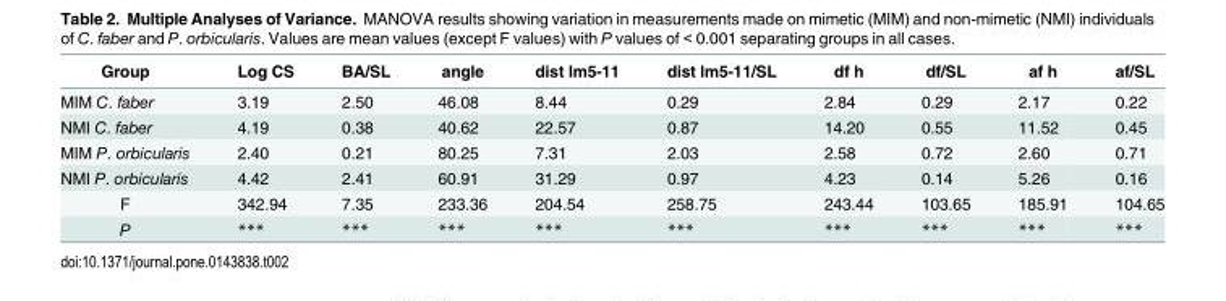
<table><thead><tr><td>Group</td><td>Log CS</td><td>BA/SL</td><td>angle</td><td>dist lm5-11</td><td>dist lm5-11/SL</td><td>df h</td><td>df/SL</td><td>af h</td><td>af/SL</td></tr></thead><tbody><tr><td>MIM C. faber</td><td>3.19</td><td>2.50</td><td>46.08</td><td>8.44</td><td>0.29</td><td>2.84</td><td>0.29</td><td>2.17</td><td>0.22</td></tr><tr><td>NMI C. faber</td><td>4.19</td><td>0.38</td><td>40.62</td><td>22.57</td><td>0.87</td><td>14.20</td><td>0.55</td><td>11.52</td><td>0.45</td></tr><tr><td>MIM P. orbicularis</td><td>2.40</td><td>0.21</td><td>80.25</td><td>7.31</td><td>2.03</td><td>2.58</td><td>0.72</td><td>2.60</td><td>0.71</td></tr><tr><td>NMI P. orbicularis</td><td>4.42</td><td>2.41</td><td>60.91</td><td>31.29</td><td>0.97</td><td>4.23</td><td>0.14</td><td>5.26</td><td>0.16</td></tr><tr><td>F</td><td>342.94</td><td>7.35</td><td>233.36</td><td>204.54</td><td>258.75</td><td>243.44</td><td>103.65</td><td>185.91</td><td>104.65</td></tr><tr><td>P</td><td>***</td><td>***</td><td>***</td><td>***</td><td>***</td><td>***</td><td>***</td><td>***</td><td>***</td></tr></tbody></table>